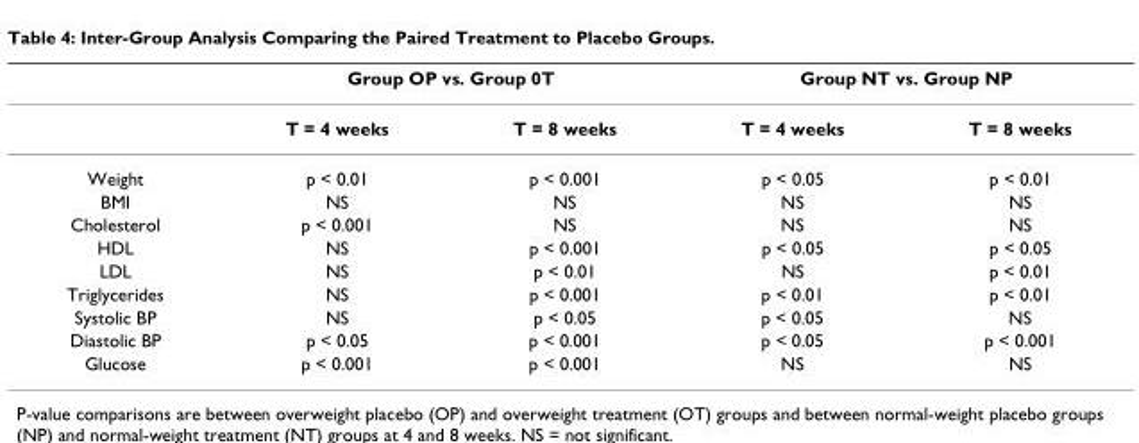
<table><thead><tr><td rowspan="2"></td><td colspan="2">Group OP vs. Group 0T</td><td colspan="2">Group NT vs. Group NP</td></tr><tr><td>T = 4 weeks</td><td>T = 8 weeks</td><td>T = 4 weeks</td><td>T = 8 weeks</td></tr></thead><tbody><tr><td>Weight</td><td>p &lt; 0.01</td><td>p &lt; 0.001</td><td>p &lt; 0.05</td><td>p &lt; 0.01</td></tr><tr><td>BMI</td><td>NS</td><td>NS</td><td>NS</td><td>NS</td></tr><tr><td>Cholesterol</td><td>p &lt; 0.001</td><td>NS</td><td>NS</td><td>NS</td></tr><tr><td>HDL</td><td>NS</td><td>p &lt; 0.001</td><td>p &lt; 0.05</td><td>p &lt; 0.05</td></tr><tr><td>LDL</td><td>NS</td><td>p &lt; 0.01</td><td>NS</td><td>p &lt; 0.01</td></tr><tr><td>Triglycerides</td><td>NS</td><td>p &lt; 0.001</td><td>p &lt; 0.01</td><td>p &lt; 0.01</td></tr><tr><td>Systolic BP</td><td>NS</td><td>p &lt; 0.05</td><td>p &lt; 0.05</td><td>NS</td></tr><tr><td>Diastolic BP</td><td>p &lt; 0.05</td><td>p &lt; 0.001</td><td>p &lt; 0.05</td><td>p &lt; 0.001</td></tr><tr><td>Glucose</td><td>p &lt; 0.001</td><td>p &lt; 0.001</td><td>NS</td><td>NS</td></tr></tbody></table>